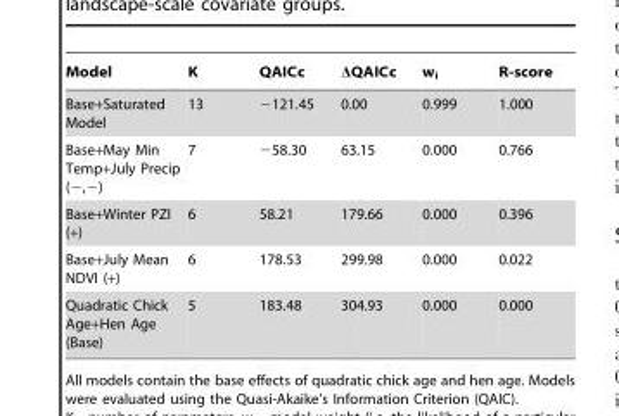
<table><thead><tr><td>Model</td><td>K</td><td>QAICc</td><td>ΔQAICc</td><td>w<sub>i</sub></td><td>R-score</td></tr></thead><tbody><tr><td>Base+Saturated Model</td><td>13</td><td>−121.45</td><td>0.00</td><td>0.999</td><td>1.000</td></tr><tr><td>Base+May Min Temp+July Precip (−,−)</td><td>7</td><td>−58.30</td><td>63.15</td><td>0.000</td><td>0.766</td></tr><tr><td>Base+Winter PZI (+)</td><td>6</td><td>58.21</td><td>179.66</td><td>0.000</td><td>0.396</td></tr><tr><td>Base+July Mean NDVI (+)</td><td>6</td><td>178.53</td><td>299.98</td><td>0.000</td><td>0.022</td></tr><tr><td>Quadratic Chick Age+Hen Age (Base)</td><td>5</td><td>183.48</td><td>304.93</td><td>0.000</td><td>0.000</td></tr></tbody></table>